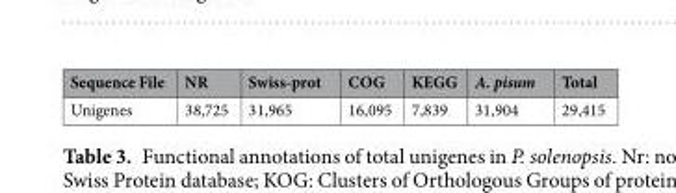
<table><thead><tr><td>Sequence File</td><td>NR</td><td>Swiss-prot</td><td>COG</td><td>KEGG</td><td>A. pisum</td><td>Total</td></tr></thead><tbody><tr><td>Unigenes</td><td>38,725</td><td>31,965</td><td>16,095</td><td>7,839</td><td>31,904</td><td>29,415</td></tr></tbody></table>